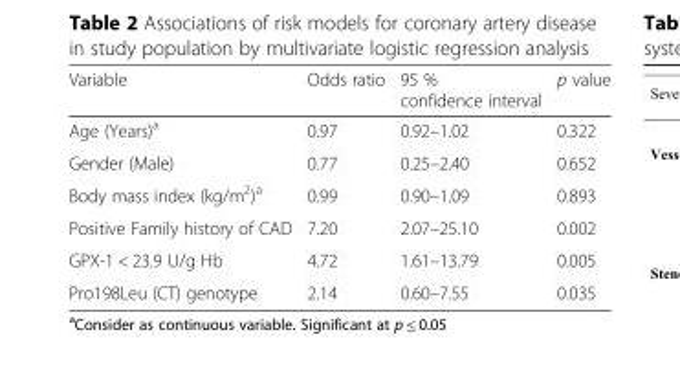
<table><thead><tr><td>Variable</td><td>Odds ratio</td><td>95 % confidence interval</td><td>p value</td></tr></thead><tbody><tr><td>Age (Years)<sup>a</sup></td><td>0.97</td><td>0.92–1.02</td><td>0.322</td></tr><tr><td>Gender (Male)</td><td>0.77</td><td>0.25–2.40</td><td>0.652</td></tr><tr><td>Body mass index (kg/m<sup>2</sup>)<sup>a</sup></td><td>0.99</td><td>0.90–1.09</td><td>0.893</td></tr><tr><td>Positive Family history of CAD</td><td>7.20</td><td>2.07–25.10</td><td>0.002</td></tr><tr><td>GPX-1 &lt; 23.9 U/g Hb</td><td>4.72</td><td>1.61–13.79</td><td>0.005</td></tr><tr><td>Pro198Leu (CT) genotype</td><td>2.14</td><td>0.60–7.55</td><td>0.035</td></tr></tbody></table>